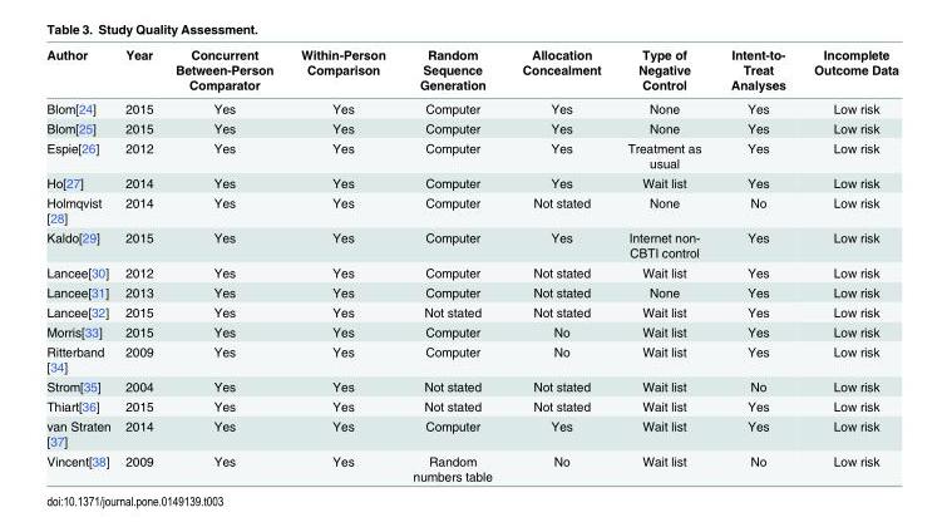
<table><thead><tr><td>Author</td><td>Year</td><td>Concurrent Between-Person Comparator</td><td>Within-Person Comparison</td><td>Random Sequence Generation</td><td>Allocation Concealment</td><td>Type of Negative Control</td><td>Intent-to- Treat Analyses</td><td>Incomplete Outcome Data</td></tr></thead><tbody><tr><td>Blom[24]</td><td>2015</td><td>Yes</td><td>Yes</td><td>Computer</td><td>Yes</td><td>None</td><td>Yes</td><td>Low risk</td></tr><tr><td>Blom[25]</td><td>2015</td><td>Yes</td><td>Yes</td><td>Computer</td><td>Yes</td><td>None</td><td>Yes</td><td>Low risk</td></tr><tr><td>Espie[26]</td><td>2012</td><td>Yes</td><td>Yes</td><td>Computer</td><td>Yes</td><td>Treatment as usual</td><td>Yes</td><td>Low risk</td></tr><tr><td>Ho[27]</td><td>2014</td><td>Yes</td><td>Yes</td><td>Computer</td><td>Yes</td><td>Wait list</td><td>Yes</td><td>Low risk</td></tr><tr><td>Holmqvist [28]</td><td>2014</td><td>Yes</td><td>Yes</td><td>Computer</td><td>Not stated</td><td>None</td><td>No</td><td>Low risk</td></tr><tr><td>Kaldo[29]</td><td>2015</td><td>Yes</td><td>Yes</td><td>Computer</td><td>Yes</td><td>Internet non- CBTI control</td><td>Yes</td><td>Low risk</td></tr><tr><td>Lancee[30]</td><td>2012</td><td>Yes</td><td>Yes</td><td>Computer</td><td>Not stated</td><td>Wait list</td><td>Yes</td><td>Low risk</td></tr><tr><td>Lancee[31]</td><td>2013</td><td>Yes</td><td>Yes</td><td>Computer</td><td>Not stated</td><td>None</td><td>Yes</td><td>Low risk</td></tr><tr><td>Lancee[32]</td><td>2015</td><td>Yes</td><td>Yes</td><td>Not stated</td><td>Not stated</td><td>Wait list</td><td>Yes</td><td>Low risk</td></tr><tr><td>Morris[33]</td><td>2015</td><td>Yes</td><td>Yes</td><td>Computer</td><td>No</td><td>Wait list</td><td>Yes</td><td>Low risk</td></tr><tr><td>Ritterband [34]</td><td>2009</td><td>Yes</td><td>Yes</td><td>Computer</td><td>No</td><td>Wait list</td><td>Yes</td><td>Low risk</td></tr><tr><td>Strom[35]</td><td>2004</td><td>Yes</td><td>Yes</td><td>Not stated</td><td>Not stated</td><td>Wait list</td><td>No</td><td>Low risk</td></tr><tr><td>Thiart[36]</td><td>2015</td><td>Yes</td><td>Yes</td><td>Not stated</td><td>Not stated</td><td>Wait list</td><td>Yes</td><td>Low risk</td></tr><tr><td>van Straten [37]</td><td>2014</td><td>Yes</td><td>Yes</td><td>Computer</td><td>Yes</td><td>Wait list</td><td>Yes</td><td>Low risk</td></tr><tr><td>Vincent[38]</td><td>2009</td><td>Yes</td><td>Yes</td><td>Random numbers table</td><td>No</td><td>Wait list</td><td>No</td><td>Low risk</td></tr></tbody></table>